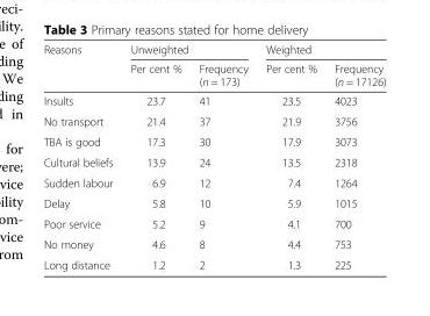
<table><thead><tr><td rowspan="2">Reasons</td><td colspan="2">Unweighted</td><td colspan="2">Weighted</td></tr><tr><td>Per cent %</td><td>Frequency (n = 173)</td><td>Per cent %</td><td>Frequency (n = 17126)</td></tr></thead><tbody><tr><td>Insults</td><td>23.7</td><td>41</td><td>23.5</td><td>4023</td></tr><tr><td>No transport</td><td>21.4</td><td>37</td><td>21.9</td><td>3756</td></tr><tr><td>TBA is good</td><td>17.3</td><td>30</td><td>17.9</td><td>3073</td></tr><tr><td>Cultural beliefs</td><td>13.9</td><td>24</td><td>13.5</td><td>2318</td></tr><tr><td>Sudden labour</td><td>6.9</td><td>12</td><td>7.4</td><td>1264</td></tr><tr><td>Delay</td><td>5.8</td><td>10</td><td>5.9</td><td>1015</td></tr><tr><td>Poor service</td><td>5.2</td><td>9</td><td>4.1</td><td>700</td></tr><tr><td>No money</td><td>4.6</td><td>8</td><td>4.4</td><td>753</td></tr><tr><td>Long distance</td><td>1.2</td><td>2</td><td>1.3</td><td>225</td></tr></tbody></table>